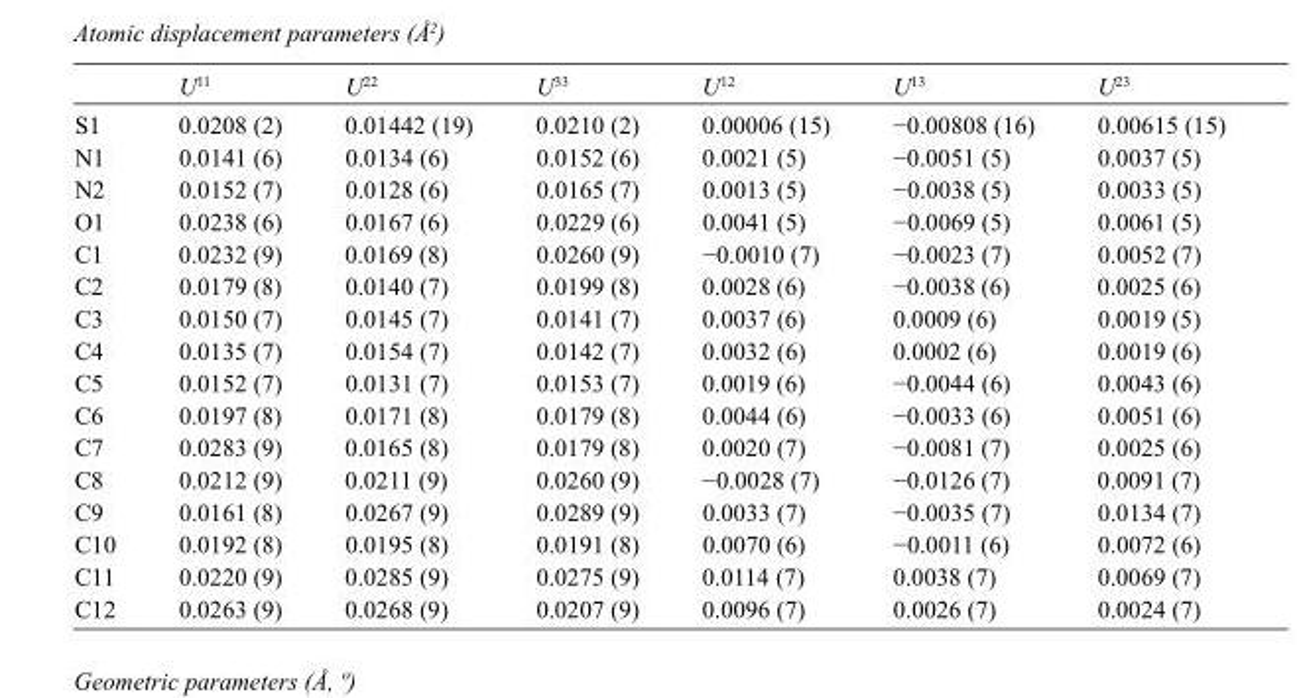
<table><thead><tr><td></td><td>U<sup>11</sup></td><td>U<sup>22</sup></td><td>U<sup>33</sup></td><td>U<sup>12</sup></td><td>U<sup>13</sup></td><td>U<sup>23</sup></td></tr></thead><tbody><tr><td>S1</td><td>0.0208 (2)</td><td>0.01442 (19)</td><td>0.0210 (2)</td><td>0.00006 (15)</td><td>−0.00808 (16)</td><td>0.00615 (15)</td></tr><tr><td>N1</td><td>0.0141 (6)</td><td>0.0134 (6)</td><td>0.0152 (6)</td><td>0.0021 (5)</td><td>−0.0051 (5)</td><td>0.0037 (5)</td></tr><tr><td>N2</td><td>0.0152 (7)</td><td>0.0128 (6)</td><td>0.0165 (7)</td><td>0.0013 (5)</td><td>−0.0038 (5)</td><td>0.0033 (5)</td></tr><tr><td>O1</td><td>0.0238 (6)</td><td>0.0167 (6)</td><td>0.0229 (6)</td><td>0.0041 (5)</td><td>−0.0069 (5)</td><td>0.0061 (5)</td></tr><tr><td>C1</td><td>0.0232 (9)</td><td>0.0169 (8)</td><td>0.0260 (9)</td><td>−0.0010 (7)</td><td>−0.0023 (7)</td><td>0.0052 (7)</td></tr><tr><td>C2</td><td>0.0179 (8)</td><td>0.0140 (7)</td><td>0.0199 (8)</td><td>0.0028 (6)</td><td>−0.0038 (6)</td><td>0.0025 (6)</td></tr><tr><td>C3</td><td>0.0150 (7)</td><td>0.0145 (7)</td><td>0.0141 (7)</td><td>0.0037 (6)</td><td>0.0009 (6)</td><td>0.0019 (5)</td></tr><tr><td>C4</td><td>0.0135 (7)</td><td>0.0154 (7)</td><td>0.0142 (7)</td><td>0.0032 (6)</td><td>0.0002 (6)</td><td>0.0019 (6)</td></tr><tr><td>C5</td><td>0.0152 (7)</td><td>0.0131 (7)</td><td>0.0153 (7)</td><td>0.0019 (6)</td><td>−0.0044 (6)</td><td>0.0043 (6)</td></tr><tr><td>C6</td><td>0.0197 (8)</td><td>0.0171 (8)</td><td>0.0179 (8)</td><td>0.0044 (6)</td><td>−0.0033 (6)</td><td>0.0051 (6)</td></tr><tr><td>C7</td><td>0.0283 (9)</td><td>0.0165 (8)</td><td>0.0179 (8)</td><td>0.0020 (7)</td><td>−0.0081 (7)</td><td>0.0025 (6)</td></tr><tr><td>C8</td><td>0.0212 (9)</td><td>0.0211 (9)</td><td>0.0260 (9)</td><td>−0.0028 (7)</td><td>−0.0126 (7)</td><td>0.0091 (7)</td></tr><tr><td>C9</td><td>0.0161 (8)</td><td>0.0267 (9)</td><td>0.0289 (9)</td><td>0.0033 (7)</td><td>−0.0035 (7)</td><td>0.0134 (7)</td></tr><tr><td>C10</td><td>0.0192 (8)</td><td>0.0195 (8)</td><td>0.0191 (8)</td><td>0.0070 (6)</td><td>−0.0011 (6)</td><td>0.0072 (6)</td></tr><tr><td>C11</td><td>0.0220 (9)</td><td>0.0285 (9)</td><td>0.0275 (9)</td><td>0.0114 (7)</td><td>0.0038 (7)</td><td>0.0069 (7)</td></tr><tr><td>C12</td><td>0.0263 (9)</td><td>0.0268 (9)</td><td>0.0207 (9)</td><td>0.0096 (7)</td><td>0.0026 (7)</td><td>0.0024 (7)</td></tr></tbody></table>